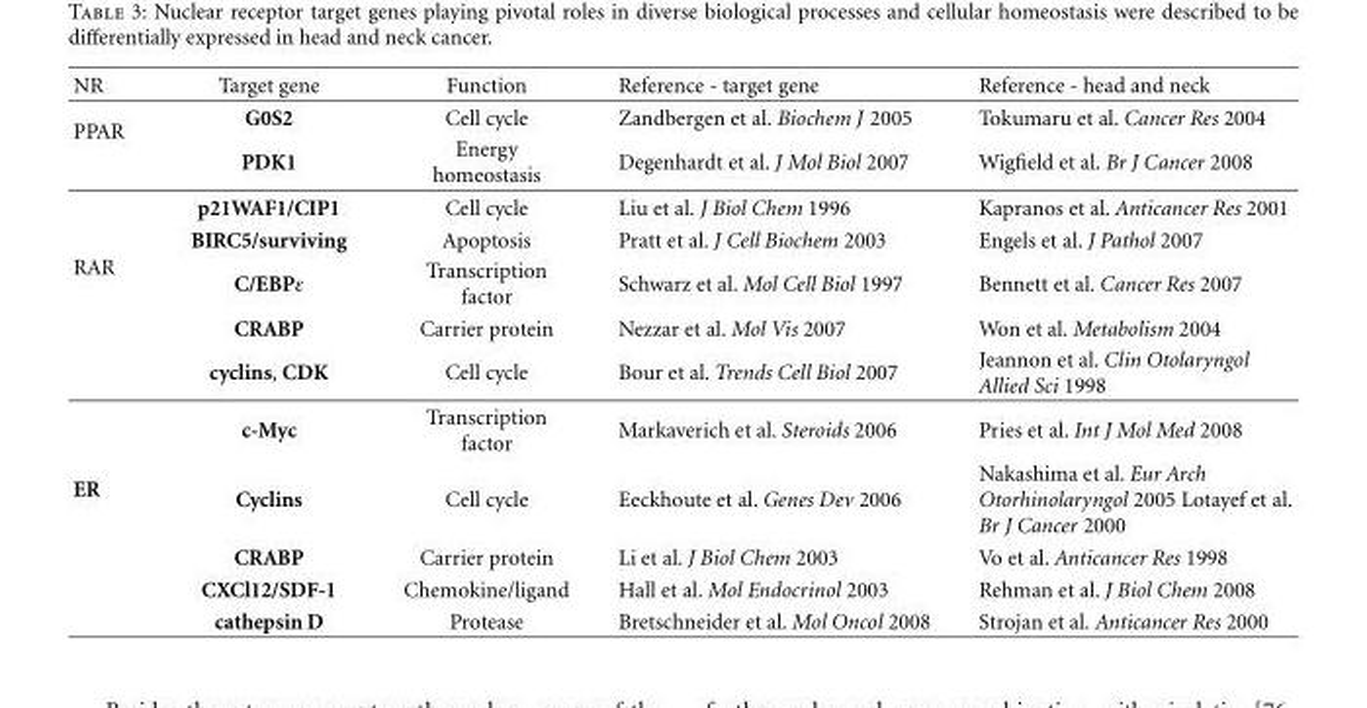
<table><thead><tr><td>NR</td><td>Target gene</td><td>Function</td><td>Reference - target gene</td><td>Reference - head and neck</td></tr></thead><tbody><tr><td rowspan="2">PPAR</td><td>G0S2</td><td>Cell cycle</td><td>Zandbergen et al. Biochem J 2005</td><td>Tokumaru et al. Cancer Res 2004</td></tr><tr><td>PDK1</td><td>Energy homeostasis</td><td>Degenhardt et al. J Mol Biol 2007</td><td>Wigfield et al. Br J Cancer 2008</td></tr><tr><td rowspan="5">RAR</td><td>p21WAF1/CIP1</td><td>Cell cycle</td><td>Liu et al. J Biol Chem 1996</td><td>Kapranos et al. Anticancer Res 2001</td></tr><tr><td>BIRC5/surviving</td><td>Apoptosis</td><td>Pratt et al. J Cell Biochem 2003</td><td>Engels et al. J Pathol 2007</td></tr><tr><td>C/EBPε</td><td>Transcription factor</td><td>Schwarz et al. Mol Cell Biol 1997</td><td>Bennett et al. Cancer Res 2007</td></tr><tr><td>CRABP</td><td>Carrier protein</td><td>Nezzar et al. Mol Vis 2007</td><td>Won et al. Metabolism 2004</td></tr><tr><td>cyclins, CDK</td><td>Cell cycle</td><td>Bour et al. Trends Cell Biol 2007</td><td>Jeannon et al. Clin Otolaryngol Allied Sci 1998</td></tr><tr><td rowspan="5">ER</td><td>c-Myc</td><td>Transcription factor</td><td>Markaverich et al. Steroids 2006</td><td>Pries et al. Int J Mol Med 2008</td></tr><tr><td>Cyclins</td><td>Cell cycle</td><td>Eeckhoute et al. Genes Dev 2006</td><td>Nakashima et al. Eur Arch Otorhinolaryngol 2005 Lotayef et al. Br J Cancer 2000</td></tr><tr><td>CRABP</td><td>Carrier protein</td><td>Li et al. J Biol Chem 2003</td><td>Vo et al. Anticancer Res 1998</td></tr><tr><td>CXCl12/SDF-1</td><td>Chemokine/ligand</td><td>Hall et al. Mol Endocrinol 2003</td><td>Rehman et al. J Biol Chem 2008</td></tr><tr><td>cathepsin D</td><td>Protease</td><td>Bretschneider et al. Mol Oncol 2008</td><td>Strojan et al. Anticancer Res 2000</td></tr></tbody></table>